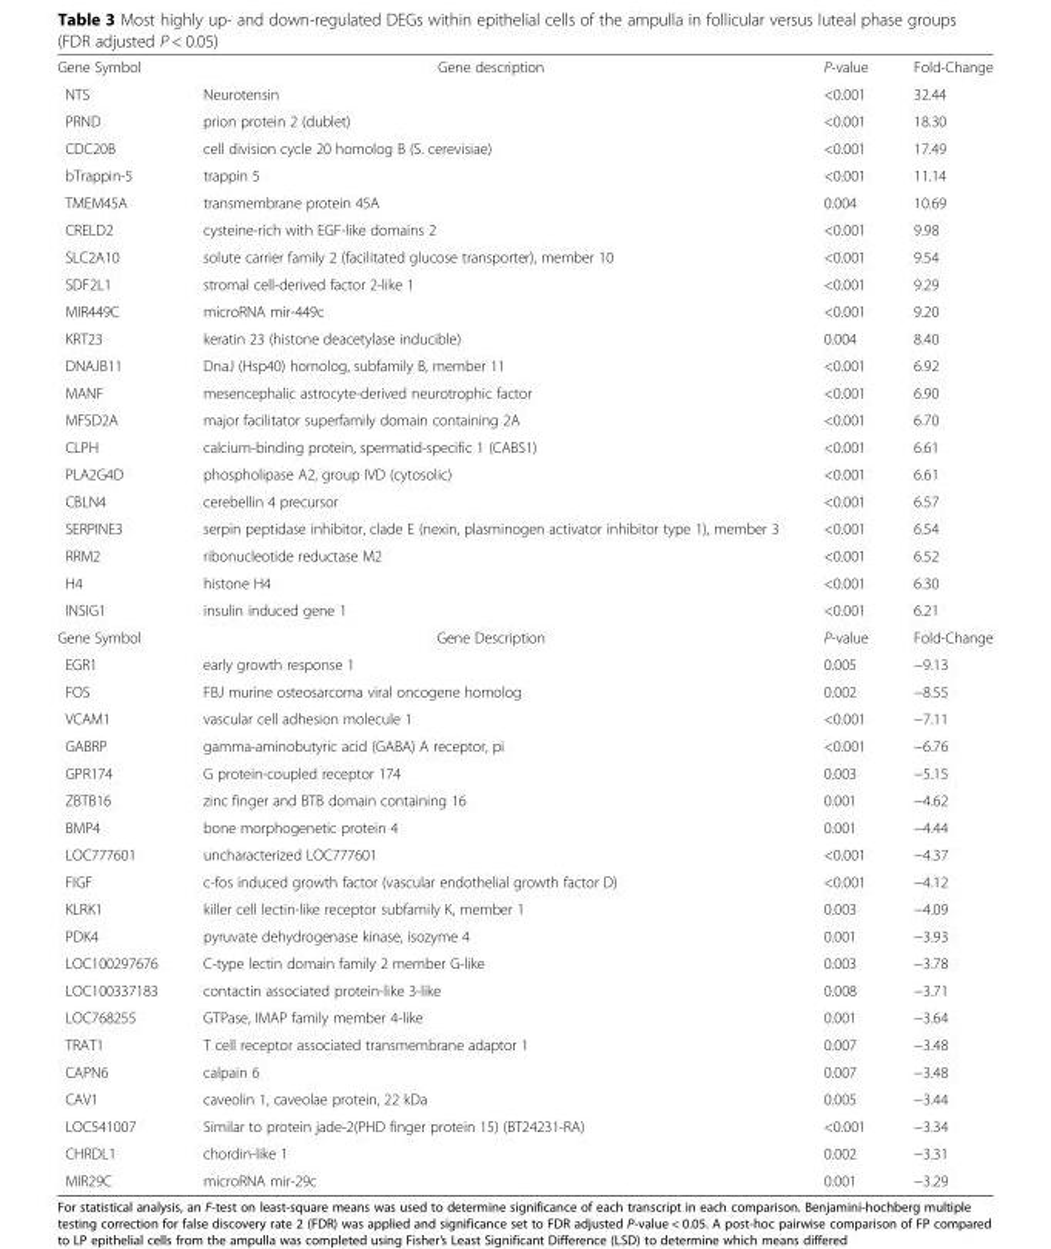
<table><tbody><tr><td>Gene Symbol</td><td>Gene description</td><td>P-value</td><td>Fold-Change</td></tr><tr><td>NTS</td><td>Neurotensin</td><td>&lt;0.001</td><td>32.44</td></tr><tr><td>PRND</td><td>prion protein 2 (dublet)</td><td>&lt;0.001</td><td>18.30</td></tr><tr><td>CDC20B</td><td>cell division cycle 20 homolog B (S. cerevisiae)</td><td>&lt;0.001</td><td>17.49</td></tr><tr><td>bTrappin-5</td><td>trappin 5</td><td>&lt;0.001</td><td>11.14</td></tr><tr><td>TMEM45A</td><td>transmembrane protein 45A</td><td>0.004</td><td>10.69</td></tr><tr><td>CRELD2</td><td>cysteine-rich with EGF-like domains 2</td><td>&lt;0.001</td><td>9.98</td></tr><tr><td>SLC2A10</td><td>solute carrier family 2 (facilitated glucose transporter), member 10</td><td>&lt;0.001</td><td>9.54</td></tr><tr><td>SDF2L1</td><td>stromal cell-derived factor 2-like 1</td><td>&lt;0.001</td><td>9.29</td></tr><tr><td>MIR449C</td><td>microRNA mir-449c</td><td>&lt;0.001</td><td>9.20</td></tr><tr><td>KRT23</td><td>keratin 23 (histone deacetylase inducible)</td><td>0.004</td><td>8.40</td></tr><tr><td>DNAJB11</td><td>DnaJ (Hsp40) homolog, subfamily B, member 11</td><td>&lt;0.001</td><td>6.92</td></tr><tr><td>MANF</td><td>mesencephalic astrocyte-derived neurotrophic factor</td><td>&lt;0.001</td><td>6.90</td></tr><tr><td>MFSD2A</td><td>major facilitator superfamily domain containing 2A</td><td>&lt;0.001</td><td>6.70</td></tr><tr><td>CLPH</td><td>calcium-binding protein, spermatid-specific 1 (CABS1)</td><td>&lt;0.001</td><td>6.61</td></tr><tr><td>PLA2G4D</td><td>phospholipase A2, group IVD (cytosolic)</td><td>&lt;0.001</td><td>6.61</td></tr><tr><td>CBLN4</td><td>cerebellin 4 precursor</td><td>&lt;0.001</td><td>6.57</td></tr><tr><td>SERPINE3</td><td>serpin peptidase inhibitor, clade E (nexin, plasminogen activator inhibitor type 1), member 3</td><td>&lt;0.001</td><td>6.54</td></tr><tr><td>RRM2</td><td>ribonucleotide reductase M2</td><td>&lt;0.001</td><td>6.52</td></tr><tr><td>H4</td><td>histone H4</td><td>&lt;0.001</td><td>6.30</td></tr><tr><td>INSIG1</td><td>insulin induced gene 1</td><td>&lt;0.001</td><td>6.21</td></tr><tr><td>Gene Symbol</td><td>Gene Description</td><td>P-value</td><td>Fold-Change</td></tr><tr><td>EGR1</td><td>early growth response 1</td><td>0.005</td><td>−9.13</td></tr><tr><td>FOS</td><td>FBJ murine osteosarcoma viral oncogene homolog</td><td>0.002</td><td>−8.55</td></tr><tr><td>VCAM1</td><td>vascular cell adhesion molecule 1</td><td>&lt;0.001</td><td>−7.11</td></tr><tr><td>GABRP</td><td>gamma-aminobutyric acid (GABA) A receptor, pi</td><td>&lt;0.001</td><td>−6.76</td></tr><tr><td>GPR174</td><td>G protein-coupled receptor 174</td><td>0.003</td><td>−5.15</td></tr><tr><td>ZBTB16</td><td>zinc finger and BTB domain containing 16</td><td>0.001</td><td>−4.62</td></tr><tr><td>BMP4</td><td>bone morphogenetic protein 4</td><td>0.001</td><td>−4.44</td></tr><tr><td>LOC777601</td><td>uncharacterized LOC777601</td><td>&lt;0.001</td><td>−4.37</td></tr><tr><td>FIGF</td><td>c-fos induced growth factor (vascular endothelial growth factor D)</td><td>&lt;0.001</td><td>−4.12</td></tr><tr><td>KLRK1</td><td>killer cell lectin-like receptor subfamily K, member 1</td><td>0.003</td><td>−4.09</td></tr><tr><td>PDK4</td><td>pyruvate dehydrogenase kinase, isozyme 4</td><td>0.001</td><td>−3.93</td></tr><tr><td>LOC100297676</td><td>C-type lectin domain family 2 member G-like</td><td>0.003</td><td>−3.78</td></tr><tr><td>LOC100337183</td><td>contactin associated protein-like 3-like</td><td>0.008</td><td>−3.71</td></tr><tr><td>LOC768255</td><td>GTPase, IMAP family member 4-like</td><td>0.001</td><td>−3.64</td></tr><tr><td>TRAT1</td><td>T cell receptor associated transmembrane adaptor 1</td><td>0.007</td><td>−3.48</td></tr><tr><td>CAPN6</td><td>calpain 6</td><td>0.007</td><td>−3.48</td></tr><tr><td>CAV1</td><td>caveolin 1, caveolae protein, 22 kDa</td><td>0.005</td><td>−3.44</td></tr><tr><td>LOC541007</td><td>Similar to protein jade-2(PHD finger protein 15) (BT24231-RA)</td><td>&lt;0.001</td><td>−3.34</td></tr><tr><td>CHRDL1</td><td>chordin-like 1</td><td>0.002</td><td>−3.31</td></tr><tr><td>MIR29C</td><td>microRNA mir-29c</td><td>0.001</td><td>−3.29</td></tr></tbody></table>